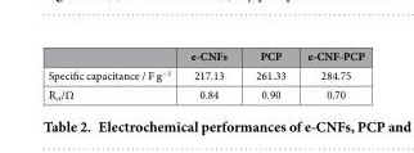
<table><thead><tr><td></td><td>e-CNFs</td><td>PCP</td><td>e-CNF-PCP</td></tr></thead><tbody><tr><td>Specific capacitance / F g<sup>−1</sup></td><td>217.13</td><td>261.33</td><td>284.75</td></tr><tr><td>R<sub>ct</sub>/Ω</td><td>0.84</td><td>0.90</td><td>0.70</td></tr></tbody></table>